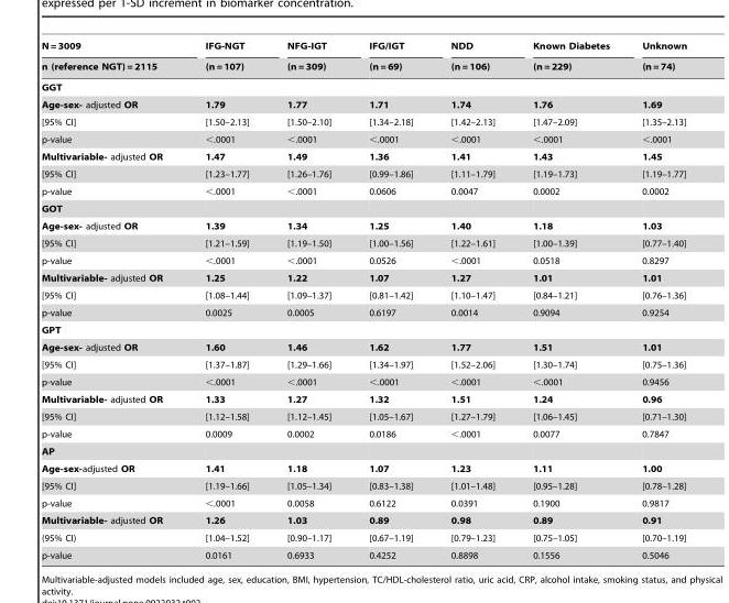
<table><thead><tr><td rowspan="2">N = 3009 n (reference NGT) = 2115</td><td rowspan="2">IFG-NGT (n = 107)</td><td rowspan="2">NFG-IGT (n = 309)</td><td rowspan="2">IFG/IGT (n = 69)</td><td rowspan="2">NDD (n = 106)</td><td rowspan="2">Known Diabetes (n = 229)</td><td rowspan="2">Unknown (n = 74)</td></tr><tr></tr></thead><tbody><tr><td colspan="7">GGT</td></tr><tr><td>Age-sex- adjusted OR</td><td>1.79</td><td>1.77</td><td>1.71</td><td>1.74</td><td>1.76</td><td>1.69</td></tr><tr><td>[95% CI]</td><td>[1.50–2.13]</td><td>[1.50–2.10]</td><td>[1.34–2.18]</td><td>[1.42–2.13]</td><td>[1.47–2.09]</td><td>[1.35–2.13]</td></tr><tr><td>p-value</td><td>&lt;.0001</td><td>&lt;.0001</td><td>&lt;.0001</td><td>&lt;.0001</td><td>&lt;.0001</td><td>&lt;.0001</td></tr><tr><td>Multivariable- adjusted OR</td><td>1.47</td><td>1.49</td><td>1.36</td><td>1.41</td><td>1.43</td><td>1.45</td></tr><tr><td>[95% CI]</td><td>[1.23–1.77]</td><td>[1.26–1.76]</td><td>[0.99–1.86]</td><td>[1.11–1.79]</td><td>[1.19–1.73]</td><td>[1.19–1.77]</td></tr><tr><td>p-value</td><td>&lt;.0001</td><td>&lt;.0001</td><td>0.0606</td><td>0.0047</td><td>0.0002</td><td>0.0002</td></tr><tr><td colspan="7">GOT</td></tr><tr><td>Age-sex- adjusted OR</td><td>1.39</td><td>1.34</td><td>1.25</td><td>1.40</td><td>1.18</td><td>1.03</td></tr><tr><td>[95% CI]</td><td>[1.21–1.59]</td><td>[1.19–1.50]</td><td>[1.00–1.56]</td><td>[1.22–1.61]</td><td>[1.00–1.39]</td><td>[0.77–1.40]</td></tr><tr><td>p-value</td><td>&lt;.0001</td><td>&lt;.0001</td><td>0.0526</td><td>&lt;.0001</td><td>0.0518</td><td>0.8297</td></tr><tr><td>Multivariable- adjusted OR</td><td>1.25</td><td>1.22</td><td>1.07</td><td>1.27</td><td>1.01</td><td>1.01</td></tr><tr><td>[95% CI]</td><td>[1.08–1.44]</td><td>[1.09–1.37]</td><td>[0.81–1.42]</td><td>[1.10–1.47]</td><td>[0.84–1.21]</td><td>[0.76–1.36]</td></tr><tr><td>p-value</td><td>0.0025</td><td>0.0005</td><td>0.6197</td><td>0.0014</td><td>0.9094</td><td>0.9254</td></tr><tr><td colspan="7">GPT</td></tr><tr><td>Age-sex- adjusted OR</td><td>1.60</td><td>1.46</td><td>1.62</td><td>1.77</td><td>1.51</td><td>1.01</td></tr><tr><td>[95% CI]</td><td>[1.37–1.87]</td><td>[1.29–1.66]</td><td>[1.34–1.97]</td><td>[1.52–2.06]</td><td>[1.30–1.74]</td><td>[0.75–1.36]</td></tr><tr><td>p-value</td><td>&lt;.0001</td><td>&lt;.0001</td><td>&lt;.0001</td><td>&lt;.0001</td><td>&lt;.0001</td><td>0.9456</td></tr><tr><td>Multivariable- adjusted OR</td><td>1.33</td><td>1.27</td><td>1.32</td><td>1.51</td><td>1.24</td><td>0.96</td></tr><tr><td>[95% CI]</td><td>[1.12–1.58]</td><td>[1.12–1.45]</td><td>[1.05–1.67]</td><td>[1.27–1.79]</td><td>[1.06–1.45]</td><td>[0.71–1.30]</td></tr><tr><td>p-value</td><td>0.0009</td><td>0.0002</td><td>0.0186</td><td>&lt;.0001</td><td>0.0077</td><td>0.7847</td></tr><tr><td colspan="7">AP</td></tr><tr><td>Age-sex-adjusted OR</td><td>1.41</td><td>1.18</td><td>1.07</td><td>1.23</td><td>1.11</td><td>1.00</td></tr><tr><td>[95% CI]</td><td>[1.19–1.66]</td><td>[1.05–1.34]</td><td>[0.83–1.38]</td><td>[1.01–1.48]</td><td>[0.95–1.28]</td><td>[0.78–1.28]</td></tr><tr><td>p-value</td><td>&lt;.0001</td><td>0.0058</td><td>0.6122</td><td>0.0391</td><td>0.1900</td><td>0.9817</td></tr><tr><td>Multivariable- adjusted OR</td><td>1.26</td><td>1.03</td><td>0.89</td><td>0.98</td><td>0.89</td><td>0.91</td></tr><tr><td>(95% CI)</td><td>[1.04–1.52]</td><td>[0.90–1.17]</td><td>[0.67–1.19]</td><td>[0.79–1.23]</td><td>[0.75–1.05]</td><td>[0.70–1.19]</td></tr><tr><td>p-value</td><td>0.0161</td><td>0.6933</td><td>0.4252</td><td>0.8898</td><td>0.1556</td><td>0.5046</td></tr></tbody></table>